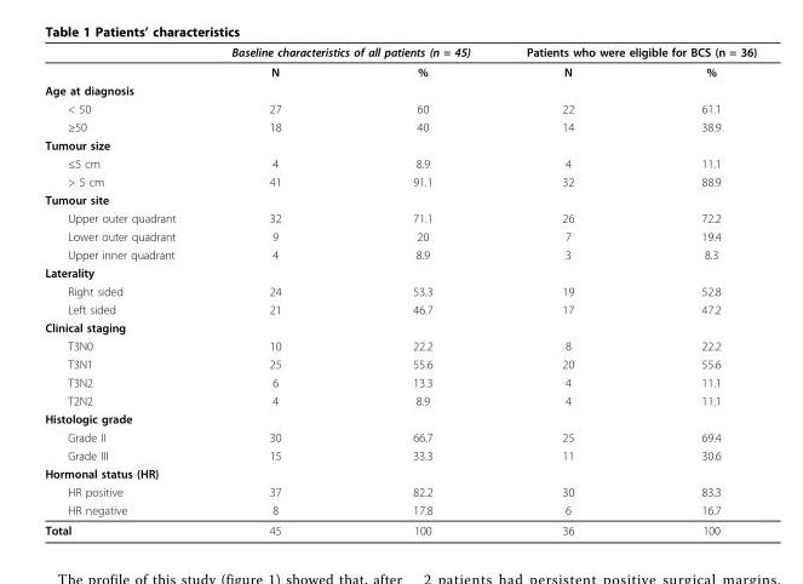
<table><thead><tr><td rowspan="2"></td><td colspan="2">Baseline characteristics of all patients (n = 45)</td><td colspan="2">Patients who were eligible for BCS (n = 36)</td></tr><tr><td>N</td><td>%</td><td>N</td><td>%</td></tr></thead><tbody><tr><td colspan="5">Age at diagnosis</td></tr><tr><td>&lt; 50</td><td>27</td><td>60</td><td>22</td><td>61.1</td></tr><tr><td>≥50</td><td>18</td><td>40</td><td>14</td><td>38.9</td></tr><tr><td colspan="5">Tumour size</td></tr><tr><td>≤5 cm</td><td>4</td><td>8.9</td><td>4</td><td>11.1</td></tr><tr><td>&gt; 5 cm</td><td>41</td><td>91.1</td><td>32</td><td>88.9</td></tr><tr><td colspan="5">Tumour site</td></tr><tr><td>Upper outer quadrant</td><td>32</td><td>71.1</td><td>26</td><td>72.2</td></tr><tr><td>Lower outer quadrant</td><td>9</td><td>20</td><td>7</td><td>19.4</td></tr><tr><td>Upper inner quadrant</td><td>4</td><td>8.9</td><td>3</td><td>8.3</td></tr><tr><td colspan="5">Laterality</td></tr><tr><td>Right sided</td><td>24</td><td>53.3</td><td>19</td><td>52.8</td></tr><tr><td>Left sided</td><td>21</td><td>46.7</td><td>17</td><td>47.2</td></tr><tr><td colspan="5">Clinical staging</td></tr><tr><td>T3N0</td><td>10</td><td>22.2</td><td>8</td><td>22.2</td></tr><tr><td>T3N1</td><td>25</td><td>55.6</td><td>20</td><td>55.6</td></tr><tr><td>T3N2</td><td>6</td><td>13.3</td><td>4</td><td>11.1</td></tr><tr><td>T2N2</td><td>4</td><td>8.9</td><td>4</td><td>11.1</td></tr><tr><td colspan="5">Histologic grade</td></tr><tr><td>Grade II</td><td>30</td><td>66.7</td><td>25</td><td>69.4</td></tr><tr><td>Grade III</td><td>15</td><td>33.3</td><td>11</td><td>30.6</td></tr><tr><td colspan="5">Hormonal status (HR)</td></tr><tr><td>HR positive</td><td>37</td><td>82.2</td><td>30</td><td>83.3</td></tr><tr><td>HR negative</td><td>8</td><td>17.8</td><td>6</td><td>16.7</td></tr><tr><td>Total</td><td>45</td><td>100</td><td>36</td><td>100</td></tr></tbody></table>